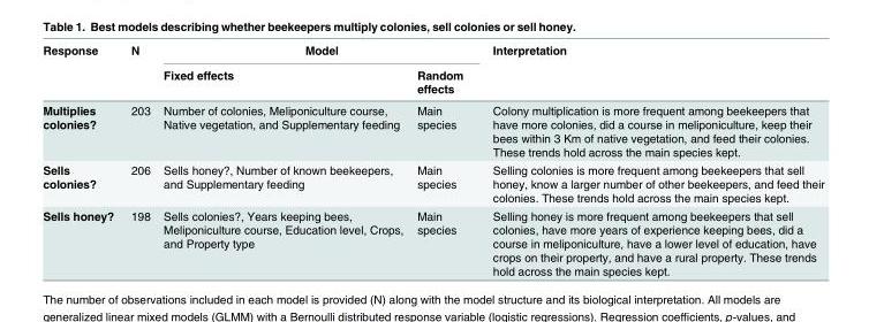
<table><thead><tr><td rowspan="2">Response</td><td rowspan="2">N</td><td colspan="2">Model</td><td rowspan="2">Interpretation</td></tr><tr><td>Fixed effects</td><td>Random effects</td></tr></thead><tbody><tr><td>Multiplies colonies?</td><td>203</td><td>Number of colonies, Meliponiculture course, Native vegetation, and Supplementary feeding</td><td>Main species</td><td>Colony multiplication is more frequent among beekeepers that have more colonies, did a course in meliponiculture, keep their bees within 3 Km of native vegetation, and feed their colonies. These trends hold across the main species kept.</td></tr><tr><td>Sells colonies?</td><td>206</td><td>Sells honey?, Number of known beekeepers, and Supplementary feeding</td><td>Main species</td><td>Selling colonies is more frequent among beekeepers that sell honey, know a larger number of other beekeepers, and feed their colonies. These trends hold across the main species kept.</td></tr><tr><td>Sells honey?</td><td>198</td><td>Sells colonies?, Years keeping bees, Meliponiculture course, Education level, Crops, and Property type</td><td>Main species</td><td>Selling honey is more frequent among beekeepers that sell colonies, have more years of experience keeping bees, did a course in meliponiculture, have a lower level of education, have crops on their property, and have a rural property. These trends hold across the main species kept.</td></tr></tbody></table>